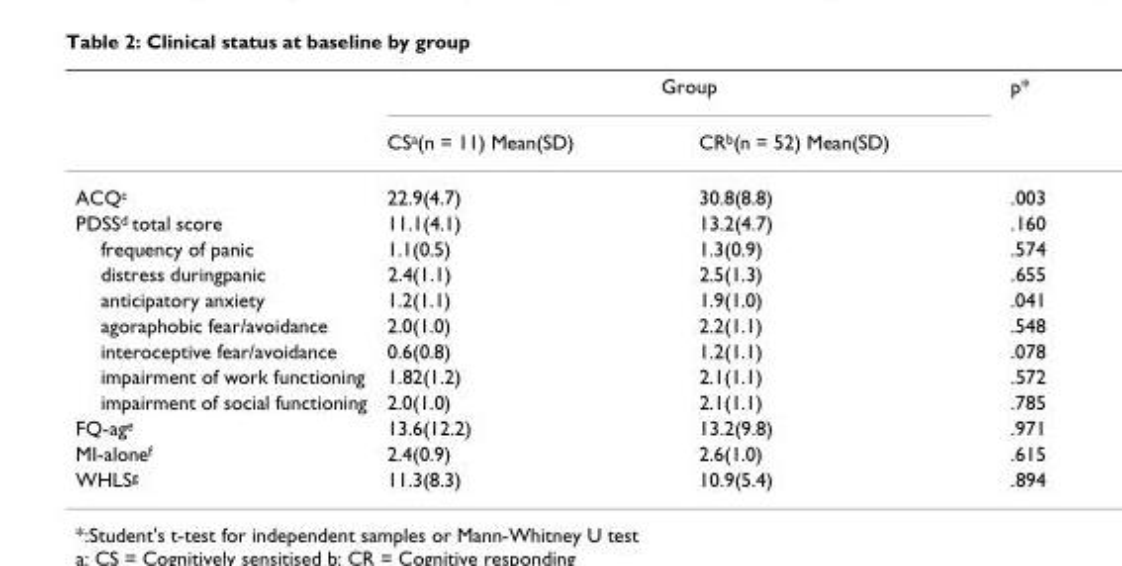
<table><thead><tr><td rowspan="2"></td><td colspan="2">Group</td><td rowspan="2">p*</td></tr><tr><td>CS<sup>a</sup>(n = 11) Mean(SD)</td><td>CR<sup>b</sup>(n = 52) Mean(SD)</td></tr></thead><tbody><tr><td>ACQ<sup>c</sup></td><td>22.9(4.7)</td><td>30.8(8.8)</td><td>.003</td></tr><tr><td>PDSS<sup>d</sup> total score</td><td>11.1(4.1)</td><td>13.2(4.7)</td><td>.160</td></tr><tr><td>frequency of panic</td><td>1.1(0.5)</td><td>1.3(0.9)</td><td>.574</td></tr><tr><td>distress duringpanic</td><td>2.4(1.1)</td><td>2.5(1.3)</td><td>.655</td></tr><tr><td>anticipatory anxiety</td><td>1.2(1.1)</td><td>1.9(1.0)</td><td>.041</td></tr><tr><td>agoraphobic fear/avoidance</td><td>2.0(1.0)</td><td>2.2(1.1)</td><td>.548</td></tr><tr><td>interoceptive fear/avoidance</td><td>0.6(0.8)</td><td>1.2(1.1)</td><td>.078</td></tr><tr><td>impairment of work functioning</td><td>1.82(1.2)</td><td>2.1(1.1)</td><td>.572</td></tr><tr><td>impairment of social functioning</td><td>2.0(1.0)</td><td>2.1(1.1)</td><td>.785</td></tr><tr><td>FQ-ag<sup>e</sup></td><td>13.6(12.2)</td><td>13.2(9.8)</td><td>.971</td></tr><tr><td>MI-alone<sup>f</sup></td><td>2.4(0.9)</td><td>2.6(1.0)</td><td>.615</td></tr><tr><td>WHLS<sup>g</sup></td><td>11.3(8.3)</td><td>10.9(5.4)</td><td>.894</td></tr></tbody></table>